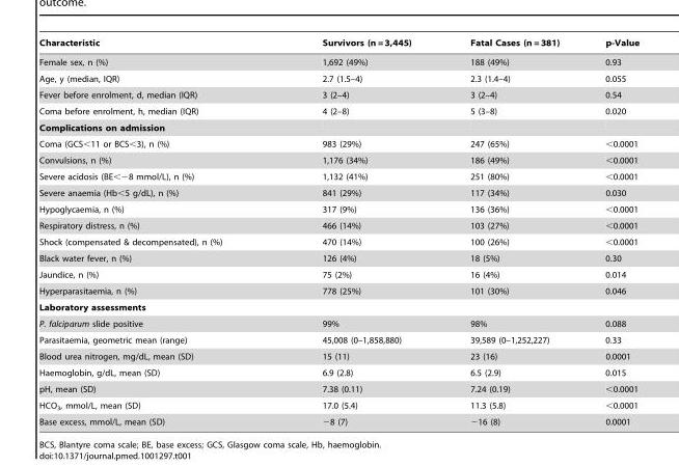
<table><thead><tr><td>Characteristic</td><td>Survivors (n = 3,445)</td><td>Fatal Cases (n = 381)</td><td>p-Value</td></tr></thead><tbody><tr><td>Female sex, n (%)</td><td>1,692 (49%)</td><td>188 (49%)</td><td>0.93</td></tr><tr><td>Age, y (median, IQR)</td><td>2.7 (1.5–4)</td><td>2.3 (1.4–4)</td><td>0.055</td></tr><tr><td>Fever before enrolment, d, median (IQR)</td><td>3 (2–4)</td><td>3 (2–4)</td><td>0.54</td></tr><tr><td>Coma before enrolment, h, median (IQR)</td><td>4 (2–8)</td><td>5 (3–8)</td><td>0.020</td></tr><tr><td colspan="4">Complications on admission</td></tr><tr><td>Coma (GCS&lt;11 or BCS&lt;3), n (%)</td><td>983 (29%)</td><td>247 (65%)</td><td>&lt;0.0001</td></tr><tr><td>Convulsions, n (%)</td><td>1,176 (34%)</td><td>186 (49%)</td><td>&lt;0.0001</td></tr><tr><td>Severe acidosis (BE&lt;−8 mmol/L), n (%)</td><td>1,132 (41%)</td><td>251 (80%)</td><td>&lt;0.0001</td></tr><tr><td>Severe anaemia (Hb&lt;5 g/dL), n (%)</td><td>841 (29%)</td><td>117 (34%)</td><td>0.030</td></tr><tr><td>Hypoglycaemia, n (%)</td><td>317 (9%)</td><td>136 (36%)</td><td>&lt;0.0001</td></tr><tr><td>Respiratory distress, n (%)</td><td>466 (14%)</td><td>103 (27%)</td><td>&lt;0.0001</td></tr><tr><td>Shock (compensated &amp; decompensated), n (%)</td><td>470 (14%)</td><td>100 (26%)</td><td>&lt;0.0001</td></tr><tr><td>Black water fever, n (%)</td><td>126 (4%)</td><td>18 (5%)</td><td>0.30</td></tr><tr><td>Jaundice, n (%)</td><td>75 (2%)</td><td>16 (4%)</td><td>0.014</td></tr><tr><td>Hyperparasitaemia, n (%)</td><td>778 (25%)</td><td>101 (30%)</td><td>0.046</td></tr><tr><td colspan="4">Laboratory assessments</td></tr><tr><td>P. falciparum slide positive</td><td>99%</td><td>98%</td><td>0.088</td></tr><tr><td>Parasitaemia, geometric mean (range)</td><td>45,008 (0–1,858,880)</td><td>39,589 (0–1,252,227)</td><td>0.33</td></tr><tr><td>Blood urea nitrogen, mg/dL, mean (SD)</td><td>15 (11)</td><td>23 (16)</td><td>0.0001</td></tr><tr><td>Haemoglobin, g/dL, mean (SD)</td><td>6.9 (2.8)</td><td>6.5 (2.9)</td><td>0.015</td></tr><tr><td>pH, mean (SD)</td><td>7.38 (0.11)</td><td>7.24 (0.19)</td><td>&lt;0.0001</td></tr><tr><td>HCO<sub>3</sub>, mmol/L, mean (SD)</td><td>17.0 (5.4)</td><td>11.3 (5.8)</td><td>&lt;0.0001</td></tr><tr><td>Base excess, mmol/L, mean (SD)</td><td>−8 (7)</td><td>−16 (8)</td><td>0.0001</td></tr></tbody></table>